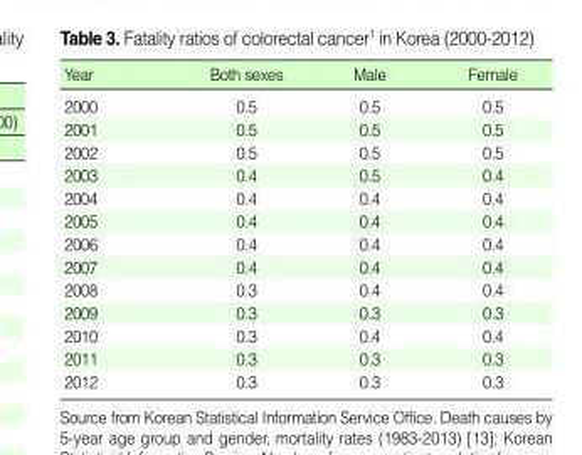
<table><thead><tr><td>Year</td><td>Both sexes</td><td>Male</td><td>Female</td></tr></thead><tbody><tr><td>2000</td><td>0.5</td><td>0.5</td><td>0.5</td></tr><tr><td>2001</td><td>0.5</td><td>0.5</td><td>0.5</td></tr><tr><td>2002</td><td>0.5</td><td>0.5</td><td>0.5</td></tr><tr><td>2003</td><td>0.4</td><td>0.5</td><td>0.4</td></tr><tr><td>2004</td><td>0.4</td><td>0.4</td><td>0.4</td></tr><tr><td>2005</td><td>0.4</td><td>0.4</td><td>0.4</td></tr><tr><td>2006</td><td>0.4</td><td>0.4</td><td>0.4</td></tr><tr><td>2007</td><td>0.4</td><td>0.4</td><td>0.4</td></tr><tr><td>2008</td><td>0.3</td><td>0.4</td><td>0.4</td></tr><tr><td>2009</td><td>0.3</td><td>0.3</td><td>0.3</td></tr><tr><td>2010</td><td>0.3</td><td>0.4</td><td>0.4</td></tr><tr><td>2011</td><td>0.3</td><td>0.3</td><td>0.3</td></tr><tr><td>2012</td><td>0.3</td><td>0.3</td><td>0.3</td></tr></tbody></table>